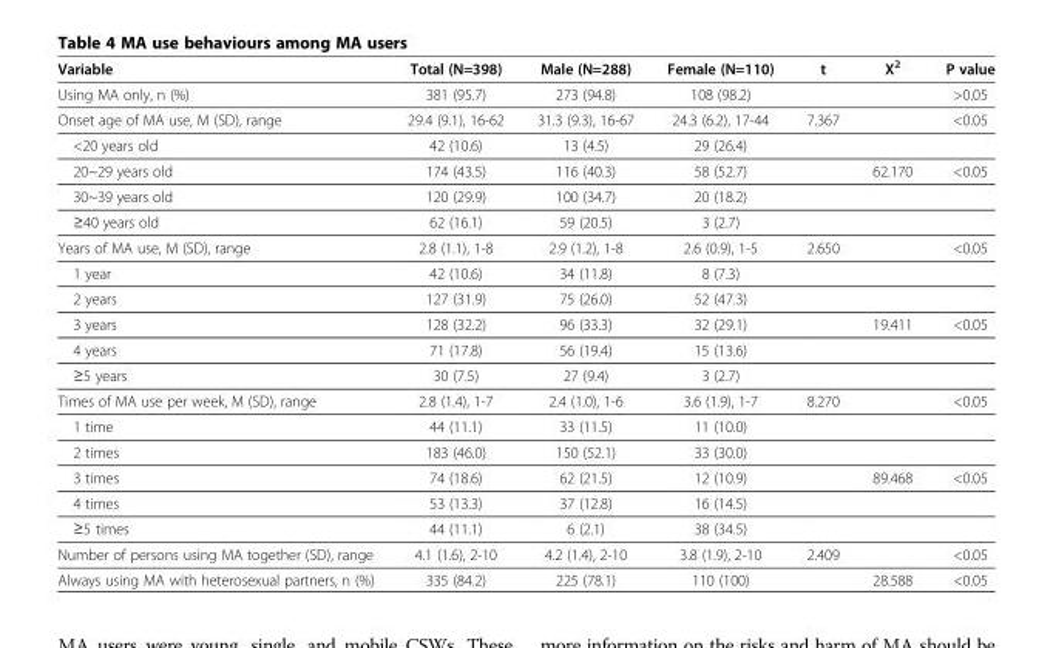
<table><thead><tr><td>Variable</td><td>Total (N=398)</td><td>Male (N=288)</td><td>Female (N=110)</td><td>t</td><td>X<sup>2</sup></td><td>P value</td></tr></thead><tbody><tr><td>Using MA only, n (%)</td><td>381 (95.7)</td><td>273 (94.8)</td><td>108 (98.2)</td><td></td><td></td><td>&gt;0.05</td></tr><tr><td>Onset age of MA use, M (SD), range</td><td>29.4 (9.1), 16-62</td><td>31.3 (9.3), 16-67</td><td>24.3 (6.2), 17-44</td><td>7.367</td><td></td><td>&lt;0.05</td></tr><tr><td>&lt;20 years old</td><td>42 (10.6)</td><td>13 (4.5)</td><td>29 (26.4)</td><td></td><td></td><td></td></tr><tr><td>20~29 years old</td><td>174 (43.5)</td><td>116 (40.3)</td><td>58 (52.7)</td><td></td><td>62.170</td><td>&lt;0.05</td></tr><tr><td>30~39 years old</td><td>120 (29.9)</td><td>100 (34.7)</td><td>20 (18.2)</td><td></td><td></td><td></td></tr><tr><td>≥40 years old</td><td>62 (16.1)</td><td>59 (20.5)</td><td>3 (2.7)</td><td></td><td></td><td></td></tr><tr><td>Years of MA use, M (SD), range</td><td>2.8 (1.1), 1-8</td><td>2.9 (1.2), 1-8</td><td>2.6 (0.9), 1-5</td><td>2.650</td><td></td><td>&lt;0.05</td></tr><tr><td>1 year</td><td>42 (10.6)</td><td>34 (11.8)</td><td>8 (7.3)</td><td></td><td></td><td></td></tr><tr><td>2 years</td><td>127 (31.9)</td><td>75 (26.0)</td><td>52 (47.3)</td><td></td><td></td><td></td></tr><tr><td>3 years</td><td>128 (32.2)</td><td>96 (33.3)</td><td>32 (29.1)</td><td></td><td>19.411</td><td>&lt;0.05</td></tr><tr><td>4 years</td><td>71 (17.8)</td><td>56 (19.4)</td><td>15 (13.6)</td><td></td><td></td><td></td></tr><tr><td>≥5 years</td><td>30 (7.5)</td><td>27 (9.4)</td><td>3 (2.7)</td><td></td><td></td><td></td></tr><tr><td>Times of MA use per week, M (SD), range</td><td>2.8 (1.4), 1-7</td><td>2.4 (1.0), 1-6</td><td>3.6 (1.9), 1-7</td><td>8.270</td><td></td><td>&lt;0.05</td></tr><tr><td>1 time</td><td>44 (11.1)</td><td>33 (11.5)</td><td>11 (10.0)</td><td></td><td></td><td></td></tr><tr><td>2 times</td><td>183 (46.0)</td><td>150 (52.1)</td><td>33 (30.0)</td><td></td><td></td><td></td></tr><tr><td>3 times</td><td>74 (18.6)</td><td>62 (21.5)</td><td>12 (10.9)</td><td></td><td>89.468</td><td>&lt;0.05</td></tr><tr><td>4 times</td><td>53 (13.3)</td><td>37 (12.8)</td><td>16 (14.5)</td><td></td><td></td><td></td></tr><tr><td>≥5 times</td><td>44 (11.1)</td><td>6 (2.1)</td><td>38 (34.5)</td><td></td><td></td><td></td></tr><tr><td>Number of persons using MA together (SD), range</td><td>4.1 (1.6), 2-10</td><td>4.2 (1.4), 2-10</td><td>3.8 (1.9), 2-10</td><td>2.409</td><td></td><td>&lt;0.05</td></tr><tr><td>Always using MA with heterosexual partners, n (%)</td><td>335 (84.2)</td><td>225 (78.1)</td><td>110 (100)</td><td></td><td>28.588</td><td>&lt;0.05</td></tr></tbody></table>